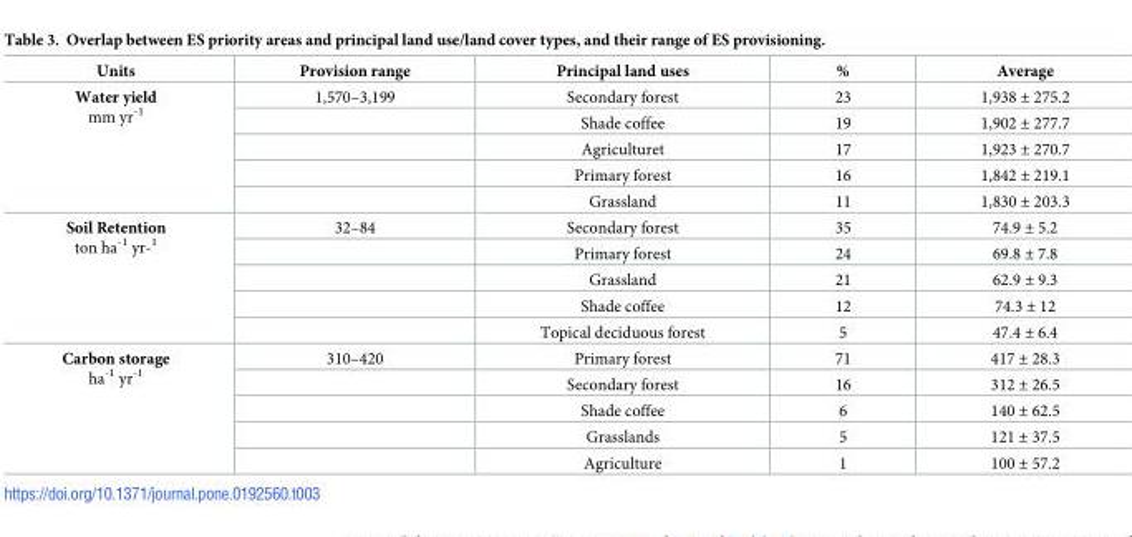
<table><thead><tr><td>Units</td><td>Provision range</td><td>Principal land uses</td><td>%</td><td>Average</td></tr></thead><tbody><tr><td rowspan="5">Water yield mm yr<sup>-1</sup></td><td>1,570–3,199</td><td>Secondary forest</td><td>23</td><td>1,938 ± 275.2</td></tr><tr><td></td><td>Shade coffee</td><td>19</td><td>1,902 ± 277.7</td></tr><tr><td></td><td>Agriculturet</td><td>17</td><td>1,923 ± 270.7</td></tr><tr><td></td><td>Primary forest</td><td>16</td><td>1,842 ± 219.1</td></tr><tr><td></td><td>Grassland</td><td>11</td><td>1,830 ± 203.3</td></tr><tr><td rowspan="5">Soil Retention ton ha<sup>-1</sup> yr-<sup>1</sup></td><td>32–84</td><td>Secondary forest</td><td>35</td><td>74.9 ± 5.2</td></tr><tr><td></td><td>Primary forest</td><td>24</td><td>69.8 ± 7.8</td></tr><tr><td></td><td>Grassland</td><td>21</td><td>62.9 ± 9.3</td></tr><tr><td></td><td>Shade coffee</td><td>12</td><td>74.3 ± 12</td></tr><tr><td></td><td>Topical deciduous forest</td><td>5</td><td>47.4 ± 6.4</td></tr><tr><td rowspan="5">Carbon storage ha<sup>-1</sup> yr<sup>-1</sup></td><td>310–420</td><td>Primary forest</td><td>71</td><td>417 ± 28.3</td></tr><tr><td></td><td>Secondary forest</td><td>16</td><td>312 ± 26.5</td></tr><tr><td></td><td>Shade coffee</td><td>6</td><td>140 ± 62.5</td></tr><tr><td></td><td>Grasslands</td><td>5</td><td>121 ± 37.5</td></tr><tr><td></td><td>Agriculture</td><td>1</td><td>100 ± 57.2</td></tr></tbody></table>